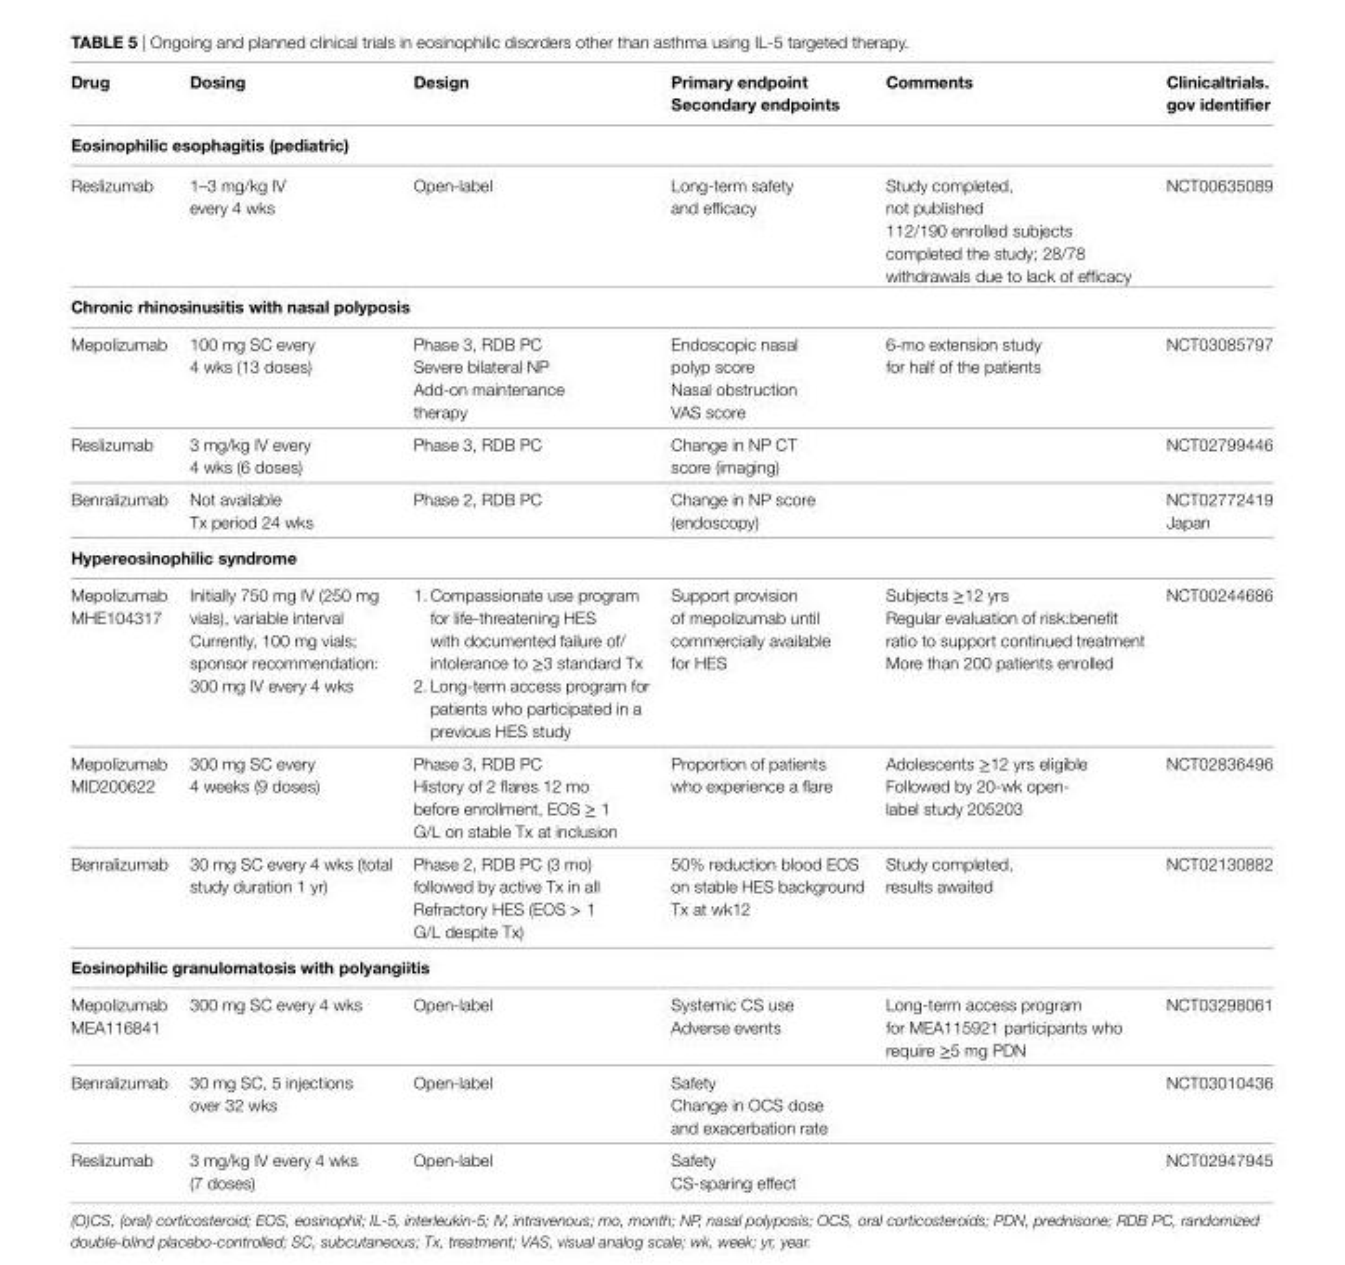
<table><thead><tr><td>Drug</td><td>Dosing</td><td>Design</td><td>Primary endpoint Secondary endpoints</td><td>Comments</td><td>Clinicaltrials. gov identifier</td></tr></thead><tbody><tr><td colspan="6">eosinophilic esophagitis (pediatric)</td></tr><tr><td>Reslizumab</td><td>1–3 mg/kg IV every 4 wks</td><td>Open-label</td><td>Long-term safety and efficacy</td><td>Study completed, not published 112/190 enrolled subjects completed the study; 28/78 withdrawals due to lack of efficacy</td><td>NCT00635089</td></tr><tr><td colspan="6">Chronic rhinosinusitis with nasal polyposis</td></tr><tr><td>Mepolizumab</td><td>100 mg SC every 4 wks (13 doses)</td><td>Phase 3, RDB PC Severe bilateral NP Add-on maintenance therapy</td><td>Endoscopic nasal polyp score Nasal obstruction VAS score</td><td>6-mo extension study for half of the patients</td><td>NCT03085797</td></tr><tr><td>Reslizumab</td><td>3 mg/kg IV every 4 wks (6 doses)</td><td>Phase 3, RDB PC</td><td>Change in NP CT score (imaging)</td><td></td><td>NCT02799446</td></tr><tr><td>Benralizumab</td><td>Not available Tx period 24 wks</td><td>Phase 2, RDB PC</td><td>Change in NP score (endoscopy)</td><td></td><td>NCT02772419 Japan</td></tr><tr><td colspan="6">Hypereosinophilic syndrome</td></tr><tr><td>Mepolizumab MHE104317</td><td>Initially 750 mg IV (250 mg vials), variable interval Currently, 100 mg vials; sponsor recommendation: 300 mg IV every 4 wks</td><td>1. Compassionate use program for life-threatening HES with documented failure of/ intolerance to ≥3 standard Tx 2. Long-term access program for patients who participated in a previous HES study</td><td>Support provision of mepolizumab until commercially available for HES</td><td>Subjects ≥12 yrs Regular evaluation of risk:benefit ratio to support continued treatment More than 200 patients enrolled</td><td>NCT00244686</td></tr><tr><td>Mepolizumab MID200622</td><td>300 mg SC every 4 weeks (9 doses)</td><td>Phase 3, RDB PC History of 2 flares 12 mo before enrollment, EOS ≥ 1 G/L on stable Tx at inclusion</td><td>Proportion of patients who experience a flare</td><td>Adolescents ≥12 yrs eligible Followed by 20-wk open- label study 205203</td><td>NCT02836496</td></tr><tr><td>Benralizumab</td><td>30 mg SC every 4 wks (total study duration 1 yr)</td><td>Phase 2, RDB PC (3 mo) followed by active Tx in all Refractory HES (EOS &gt; 1 G/L despite Tx)</td><td>50% reduction blood EOS on stable HES background Tx at wk12</td><td>Study completed, results awaited</td><td>NCT02130882</td></tr><tr><td colspan="6">eosinophilic granulomatosis with polyangiitis</td></tr><tr><td>Mepolizumab MEA116841</td><td>300 mg SC every 4 wks</td><td>Open-label</td><td>Systemic CS use Adverse events</td><td>Long-term access program for MEA115921 participants who require ≥5 mg PDN</td><td>NCT03298061</td></tr><tr><td>Benralizumab</td><td>30 mg SC, 5 injections over 32 wks</td><td>Open-label</td><td>Safety Change in OCS dose and exacerbation rate</td><td></td><td>NCT03010436</td></tr><tr><td>Reslizumab</td><td>3 mg/kg IV every 4 wks (7 doses)</td><td>Open-label</td><td>Safety CS-sparing effect</td><td></td><td>NCT02947945</td></tr></tbody></table>